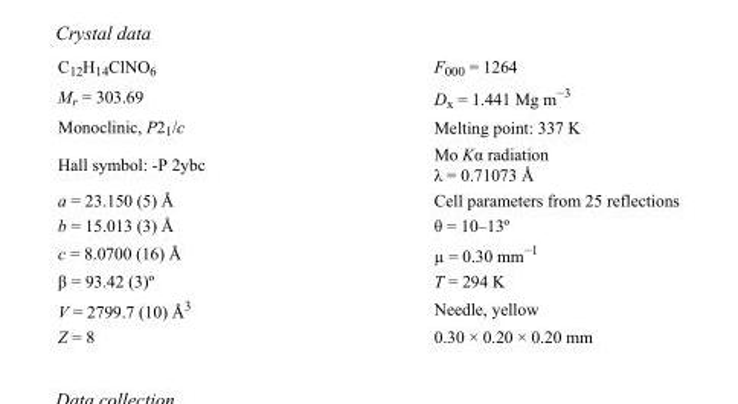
<table><tbody><tr><td>C<sub>12</sub>H<sub>14</sub>ClNO<sub>6</sub></td><td>F000 = 1264</td></tr><tr><td>M<sub>r</sub> = 303.69</td><td>D<sub>x</sub> = 1.441 Mg m<sup>−3</sup></td></tr><tr><td>Monoclinic, P2<sub>1</sub>/c</td><td>Melting point: 337 K</td></tr><tr><td>Hall symbol: -P 2ybc</td><td>Mo Kα radiation λ = 0.71073 Å</td></tr><tr><td>a = 23.150 (5) Å</td><td>Cell parameters from 25 reflections</td></tr><tr><td>b = 15.013 (3) Å</td><td>θ = 10–13º</td></tr><tr><td>c = 8.0700 (16) Å</td><td>µ = 0.30 mm<sup>−1</sup></td></tr><tr><td>β = 93.42 (3)º</td><td>T = 294 K</td></tr><tr><td>V = 2799.7 (10) Å<sup>3</sup></td><td>Needle, yellow</td></tr><tr><td>Z = 8</td><td>0.30 × 0.20 × 0.20 mm</td></tr></tbody></table>